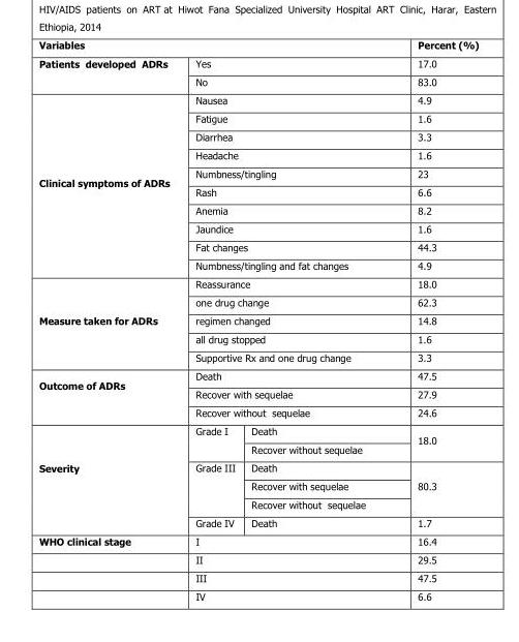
<table><thead><tr><td colspan="3">Variables</td><td>Percent (%)</td></tr></thead><tbody><tr><td rowspan="2">Patients developed ADRs</td><td colspan="2">Yes</td><td>17.0</td></tr><tr><td colspan="2">No</td><td>83.0</td></tr><tr><td rowspan="10">Clinical symptoms of ADRs</td><td colspan="2">Nausea</td><td>4.9</td></tr><tr><td colspan="2">Fatigue</td><td>1.6</td></tr><tr><td colspan="2">Diarrhea</td><td>3.3</td></tr><tr><td colspan="2">Headache</td><td>1.6</td></tr><tr><td colspan="2">Numbness/tingling</td><td>23</td></tr><tr><td colspan="2">Rash</td><td>6.6</td></tr><tr><td colspan="2">Anemia</td><td>8.2</td></tr><tr><td colspan="2">Jaundice</td><td>1.6</td></tr><tr><td colspan="2">Fat changes</td><td>44.3</td></tr><tr><td colspan="2">Numbness/tingling and fat changes</td><td>4.9</td></tr><tr><td rowspan="5">Measure taken for ADRs</td><td colspan="2">Reassurance</td><td>18.0</td></tr><tr><td colspan="2">one drug change</td><td>62.3</td></tr><tr><td colspan="2">regimen changed</td><td>14.8</td></tr><tr><td colspan="2">all drug stopped</td><td>1.6</td></tr><tr><td colspan="2">Supportive Rx and one drug change</td><td>3.3</td></tr><tr><td rowspan="3">Outcome of ADRs</td><td colspan="2">Death</td><td>47.5</td></tr><tr><td colspan="2">Recover with sequelae</td><td>27.9</td></tr><tr><td colspan="2">Recover without sequelae</td><td>24.6</td></tr><tr><td rowspan="6">Severity</td><td rowspan="2">Grade I</td><td>Death</td><td rowspan="2">18.0</td></tr><tr><td>Recover without sequelae</td></tr><tr><td rowspan="3">Grade III</td><td>Death</td><td rowspan="3">80.3</td></tr><tr><td>Recover with sequelae</td></tr><tr><td>Recover without sequelae</td></tr><tr><td>Grade IV</td><td>Death</td><td>1.7</td></tr><tr><td rowspan="4">WHO clinical stage</td><td colspan="2">I</td><td>16.4</td></tr><tr><td colspan="2">II</td><td>29.5</td></tr><tr><td colspan="2">III</td><td>47.5</td></tr><tr><td colspan="2">IV</td><td>6.6</td></tr></tbody></table>